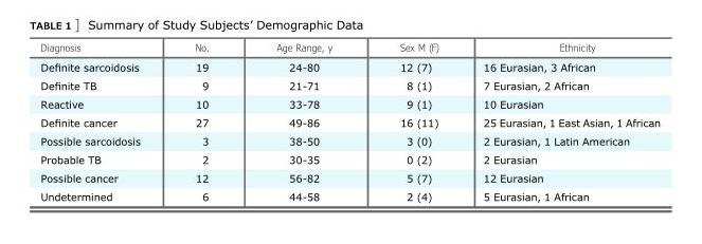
<table><thead><tr><td>Diagnosis</td><td>No.</td><td>Age Range, y</td><td>Sex M (F)</td><td>Ethnicity</td></tr></thead><tbody><tr><td>Definite sarcoidosis</td><td>19</td><td>24-80</td><td>12 (7)</td><td>16 Eurasian, 3 African</td></tr><tr><td>Definite TB</td><td>9</td><td>21-71</td><td>8 (1)</td><td>7 Eurasian, 2 African</td></tr><tr><td>Reactive</td><td>10</td><td>33-78</td><td>9 (1)</td><td>10 Eurasian</td></tr><tr><td>Definite cancer</td><td>27</td><td>49-86</td><td>16 (11)</td><td>25 Eurasian, 1 East Asian, 1 African</td></tr><tr><td>Possible sarcoidosis</td><td>3</td><td>38-50</td><td>3 (0)</td><td>2 Eurasian, 1 Latin American</td></tr><tr><td>Probable TB</td><td>2</td><td>30-35</td><td>0 (2)</td><td>2 Eurasian</td></tr><tr><td>Possible cancer</td><td>12</td><td>56-82</td><td>5 (7)</td><td>12 Eurasian</td></tr><tr><td>Undetermined</td><td>6</td><td>44-58</td><td>2 (4)</td><td>5 Eurasian, 1 African</td></tr></tbody></table>